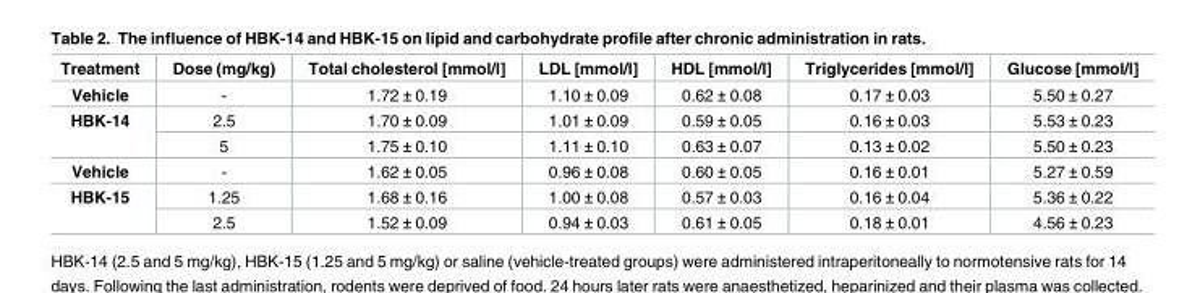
<table><thead><tr><td>Treatment</td><td>Dose (mg/kg)</td><td>Total cholesterol [mmol/l]</td><td>LDL [mmol/l]</td><td>HDL [mmol/l]</td><td>Triglycerides [mmol/l]</td><td>Glucose [mmol/l]</td></tr></thead><tbody><tr><td>Vehicle</td><td>-</td><td>1.72 ± 0.19</td><td>1.10 ± 0.09</td><td>0.62 ± 0.08</td><td>0.17 ± 0.03</td><td>5.50 ± 0.27</td></tr><tr><td rowspan="2">HBK-14</td><td>2.5</td><td>1.70 ± 0.09</td><td>1.01 ± 0.09</td><td>0.59 ± 0.05</td><td>0.16 ± 0.03</td><td>5.53 ± 0.23</td></tr><tr><td>5</td><td>1.75 ± 0.10</td><td>1.11 ± 0.10</td><td>0.63 ± 0.07</td><td>0.13 ± 0.02</td><td>5.50 ± 0.23</td></tr><tr><td>Vehicle</td><td>-</td><td>1.62 ± 0.05</td><td>0.96 ± 0.08</td><td>0.60 ± 0.05</td><td>0.16 ± 0.01</td><td>5.27 ± 0.59</td></tr><tr><td rowspan="2">HBK-15</td><td>1.25</td><td>1.68 ± 0.16</td><td>1.00 ± 0.08</td><td>0.57 ± 0.03</td><td>0.16 ± 0.04</td><td>5.36 ± 0.22</td></tr><tr><td>2.5</td><td>1.52 ± 0.09</td><td>0.94 ± 0.03</td><td>0.61 ± 0.05</td><td>0.18 ± 0.01</td><td>4.56 ± 0.23</td></tr></tbody></table>